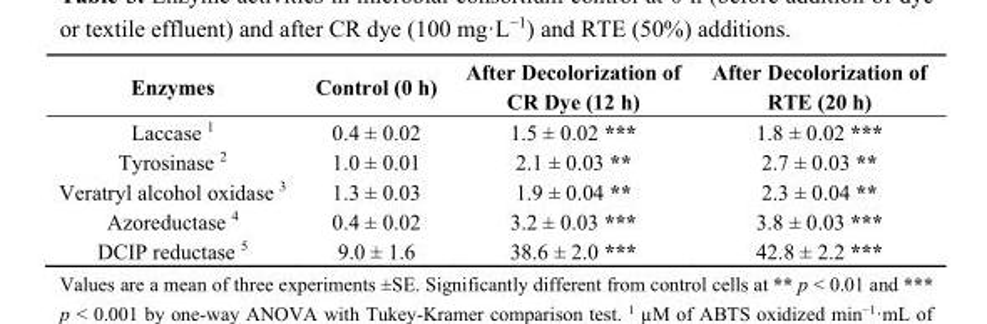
<table><thead><tr><td>Enzymes</td><td>Control (0 h)</td><td>After Decolorization of CR Dye (12 h)</td><td>After Decolorization of RTE (20 h)</td></tr></thead><tbody><tr><td>Laccase <sup>1</sup></td><td>0.4 ± 0.02</td><td>1.5 ± 0.02 ***</td><td>1.8 ± 0.02 ***</td></tr><tr><td>Tyrosinase <sup>2</sup></td><td>1.0 ± 0.01</td><td>2.1 ± 0.03 **</td><td>2.7 ± 0.03 **</td></tr><tr><td>Veratryl alcohol oxidase <sup>3</sup></td><td>1.3 ± 0.03</td><td>1.9 ± 0.04 **</td><td>2.3 ± 0.04 **</td></tr><tr><td>Azoreductase <sup>4</sup></td><td>0.4 ± 0.02</td><td>3.2 ± 0.03 ***</td><td>3.8 ± 0.03 ***</td></tr><tr><td>DCIP reductase <sup>5</sup></td><td>9.0 ± 1.6</td><td>38.6 ± 2.0 ***</td><td>42.8 ± 2.2 ***</td></tr></tbody></table>